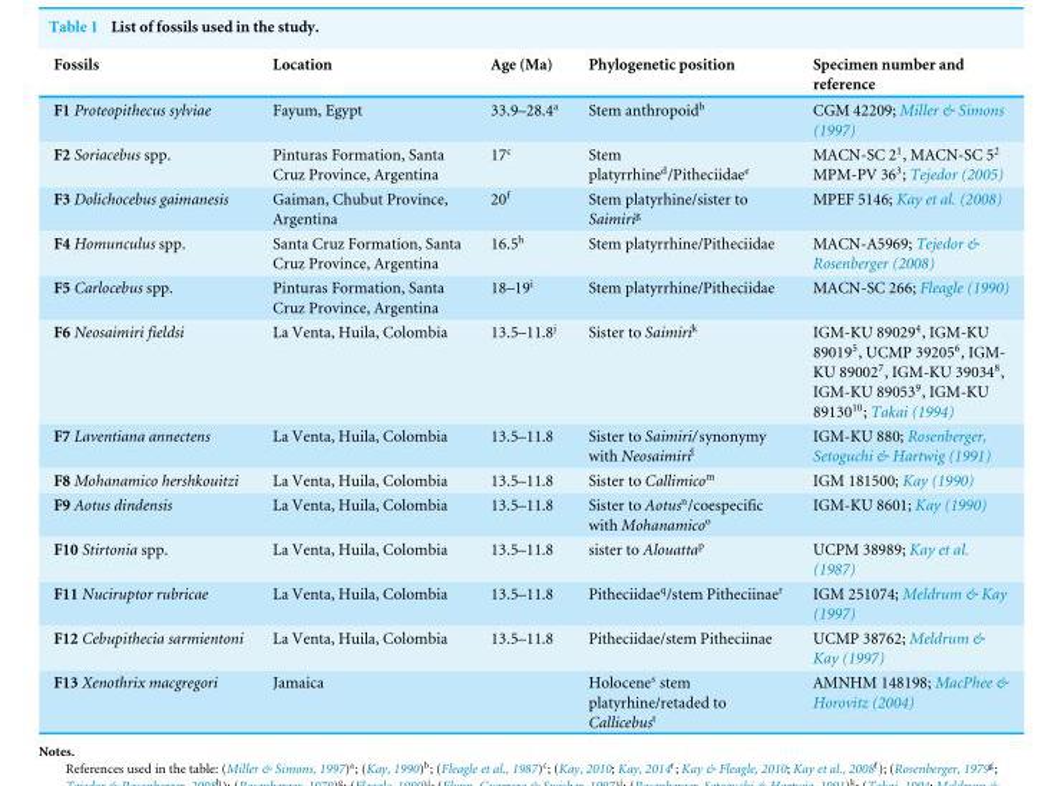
<table><thead><tr><td>Fossils</td><td>Location</td><td>Age (Ma)</td><td>Phylogenetic position</td><td>Specimen number and reference</td></tr></thead><tbody><tr><td>F1 Proteopithecus sylviae</td><td>Fayum, Egypt</td><td>33.9–28.4<sup>a</sup></td><td>Stem anthropoid<sup>b</sup></td><td>CGM 42209; Miller &amp; Simons (1997)</td></tr><tr><td>F2 Soriacebus spp.</td><td>Pinturas Formation, Santa Cruz Province, Argentina</td><td>17<sup>c</sup></td><td>Stem platyrrhine<sup>d</sup>/Pitheciidae<sup>e</sup></td><td>MACN-SC 2<sup>1</sup>, MACN-SC 5<sup>2</sup> MPM-PV 36<sup>3</sup>; Tejedor (2005)</td></tr><tr><td>F3 Dolichocebus gaimanesis</td><td>Gaiman, Chubut Province, Argentina</td><td>20<sup>f</sup></td><td>Stem platyrhine/sister to Saimiri<sup>g</sup></td><td>MPEF 5146; Kay et al. (2008)</td></tr><tr><td>F4 Homunculus spp.</td><td>Santa Cruz Formation, Santa Cruz Province, Argentina</td><td>16.5<sup>h</sup></td><td>Stem platyrrhine/Pitheciidae</td><td>MACN-A5969; Tejedor &amp; Rosenberger (2008)</td></tr><tr><td>F5 Carlocebus spp.</td><td>Pinturas Formation, Santa Cruz Province, Argentina</td><td>18–19<sup>i</sup></td><td>Stem platyrrhine/Pitheciidae</td><td>MACN-SC 266; Fleagle (1990)</td></tr><tr><td>F6 Neosaimiri fieldsi</td><td>La Venta, Huila, Colombia</td><td>13.5–11.8<sup>j</sup></td><td>Sister to Saimiri<sup>k</sup></td><td>IGM-KU 89029<sup>4</sup>, IGM-KU 89019<sup>5</sup>, UCMP 39205<sup>6</sup>, IGM- KU 89002<sup>7</sup>, IGM-KU 39034<sup>8</sup>, IGM-KU 89053<sup>9</sup>, IGM-KU 89130<sup>10</sup>; Takai (1994)</td></tr><tr><td>F7 Laventiana annectens</td><td>La Venta, Huila, Colombia</td><td>13.5–11.8</td><td>Sister to Saimiri/synonymy with Neosaimiri<sup>l</sup></td><td>IGM-KU 880; Rosenberger, Setoguchi &amp; Hartwig (1991)</td></tr><tr><td>F8 Mohanamico hershkouitzi</td><td>La Venta, Huila, Colombia</td><td>13.5–11.8</td><td>Sister to Callimico<sup>m</sup></td><td>IGM 181500; Kay (1990)</td></tr><tr><td>F9 Aotus dindensis</td><td>La Venta, Huila, Colombia</td><td>13.5–11.8</td><td>Sister to Aotus<sup>n</sup>/coespecific with Mohanamico<sup>o</sup></td><td>IGM-KU 8601; Kay (1990)</td></tr><tr><td>F10 Stirtonia spp.</td><td>La Venta, Huila, Colombia</td><td>13.5–11.8</td><td>sister to Alouatta<sup>p</sup></td><td>UCPM 38989; Kay et al. (1987)</td></tr><tr><td>F11 Nuciruptor rubricae</td><td>La Venta, Huila, Colombia</td><td>13.5–11.8</td><td>Pitheciidae<sup>q</sup>/stem Pitheciinae<sup>r</sup></td><td>IGM 251074; Meldrum &amp; Kay (1997)</td></tr><tr><td>F12 Cebupithecia sarmientoni</td><td>La Venta, Huila, Colombia</td><td>13.5–11.8</td><td>Pitheciidae/stem Pitheciinae</td><td>UCMP 38762; Meldrum &amp; Kay (1997)</td></tr><tr><td>F13 Xenothrix macgregori</td><td>Jamaica</td><td></td><td>Holocene<sup>s</sup> stem platyrhine/retaded to Callicebus<sup>t</sup></td><td>AMNHM 148198; MacPhee &amp; Horovitz (2004)</td></tr></tbody></table>